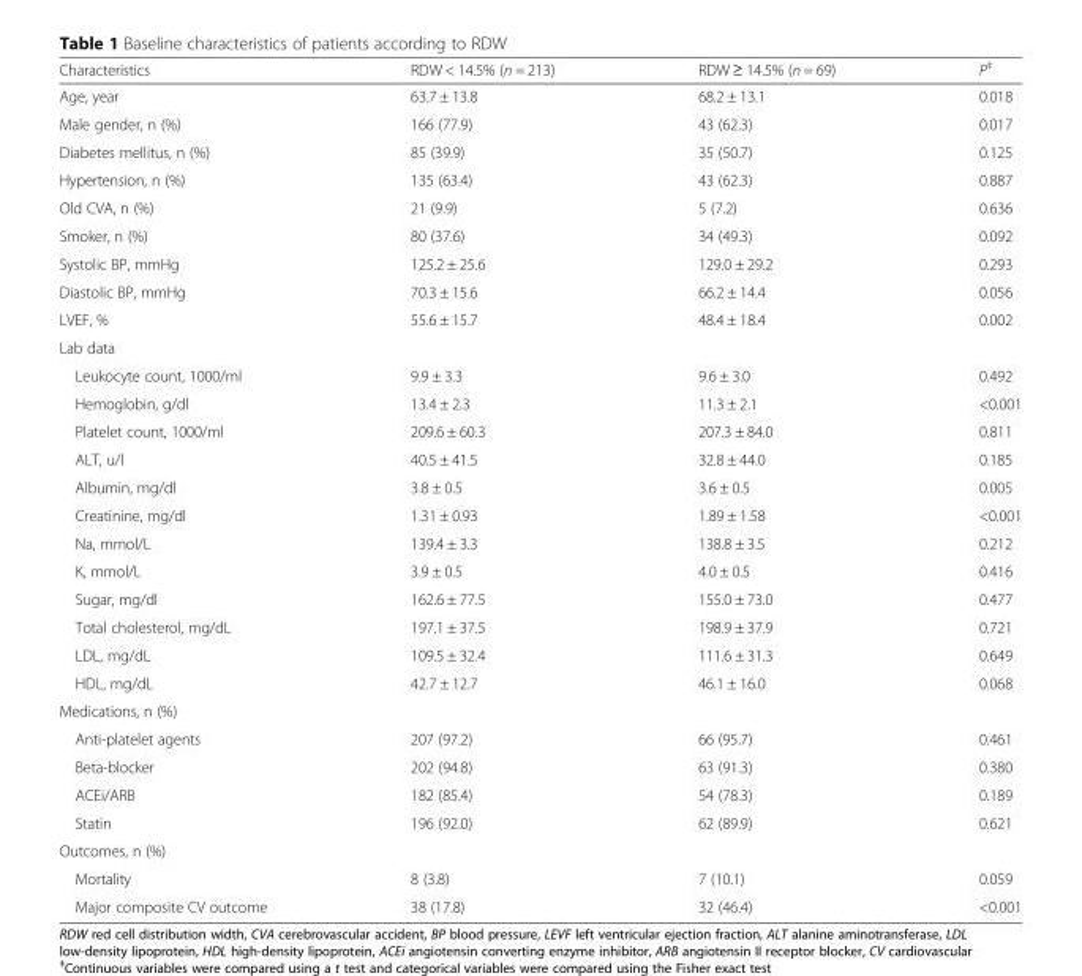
<table><thead><tr><td>Characteristics</td><td>RDW &lt; 14.5% (n = 213)</td><td>RDW ≥ 14.5% (n = 69)</td><td>P<sup>‡</sup></td></tr></thead><tbody><tr><td>Age, year</td><td>63.7 ± 13.8</td><td>68.2 ± 13.1</td><td>0.018</td></tr><tr><td>Male gender, n (%)</td><td>166 (77.9)</td><td>43 (62.3)</td><td>0.017</td></tr><tr><td>Diabetes mellitus, n (%)</td><td>85 (39.9)</td><td>35 (50.7)</td><td>0.125</td></tr><tr><td>Hypertension, n (%)</td><td>135 (63.4)</td><td>43 (62.3)</td><td>0.887</td></tr><tr><td>Old CVA, n (%)</td><td>21 (9.9)</td><td>5 (7.2)</td><td>0.636</td></tr><tr><td>Smoker, n (%)</td><td>80 (37.6)</td><td>34 (49.3)</td><td>0.092</td></tr><tr><td>Systolic BP, mmHg</td><td>125.2 ± 25.6</td><td>129.0 ± 29.2</td><td>0.293</td></tr><tr><td>Diastolic BP, mmHg</td><td>70.3 ± 15.6</td><td>66.2 ± 14.4</td><td>0.056</td></tr><tr><td>LVEF, %</td><td>55.6 ± 15.7</td><td>48.4 ± 18.4</td><td>0.002</td></tr><tr><td colspan="4">Lab data</td></tr><tr><td>Leukocyte count, 1000/ml</td><td>9.9 ± 3.3</td><td>9.6 ± 3.0</td><td>0.492</td></tr><tr><td>Hemoglobin, g/dl</td><td>13.4 ± 2.3</td><td>11.3 ± 2.1</td><td>&lt;0.001</td></tr><tr><td>Platelet count, 1000/ml</td><td>209.6 ± 60.3</td><td>207.3 ± 84.0</td><td>0.811</td></tr><tr><td>ALT, u/l</td><td>40.5 ± 41.5</td><td>32.8 ± 44.0</td><td>0.185</td></tr><tr><td>Albumin, mg/dl</td><td>3.8 ± 0.5</td><td>3.6 ± 0.5</td><td>0.005</td></tr><tr><td>Creatinine, mg/dl</td><td>1.31 ± 0.93</td><td>1.89 ± 1.58</td><td>&lt;0.001</td></tr><tr><td>Na, mmol/L</td><td>139.4 ± 3.3</td><td>138.8 ± 3.5</td><td>0.212</td></tr><tr><td>K, mmol/L</td><td>3.9 ± 0.5</td><td>4.0 ± 0.5</td><td>0.416</td></tr><tr><td>Sugar, mg/dl</td><td>162.6 ± 77.5</td><td>155.0 ± 73.0</td><td>0.477</td></tr><tr><td>Total cholesterol, mg/dL</td><td>197.1 ± 37.5</td><td>198.9 ± 37.9</td><td>0.721</td></tr><tr><td>LDL, mg/dL</td><td>109.5 ± 32.4</td><td>111.6 ± 31.3</td><td>0.649</td></tr><tr><td>HDL, mg/dL</td><td>42.7 ± 12.7</td><td>46.1 ± 16.0</td><td>0.068</td></tr><tr><td colspan="4">Medications, n (%)</td></tr><tr><td>Anti-platelet agents</td><td>207 (97.2)</td><td>66 (95.7)</td><td>0.461</td></tr><tr><td>Beta-blocker</td><td>202 (94.8)</td><td>63 (91.3)</td><td>0.380</td></tr><tr><td>ACEi/ARB</td><td>182 (85.4)</td><td>54 (78.3)</td><td>0.189</td></tr><tr><td>Statin</td><td>196 (92.0)</td><td>62 (89.9)</td><td>0.621</td></tr><tr><td colspan="4">Outcomes, n (%)</td></tr><tr><td>Mortality</td><td>8 (3.8)</td><td>7 (10.1)</td><td>0.059</td></tr><tr><td>Major composite CV outcome</td><td>38 (17.8)</td><td>32 (46.4)</td><td>&lt;0.001</td></tr></tbody></table>